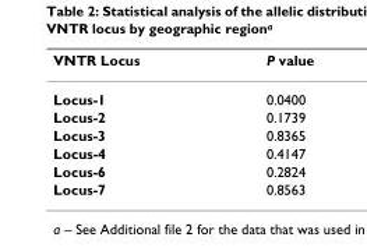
<table><thead><tr><td>VNTR Locus</td><td>P value</td></tr></thead><tbody><tr><td>Locus-1</td><td>0.0400</td></tr><tr><td>Locus-2</td><td>0.1739</td></tr><tr><td>Locus-3</td><td>0.8365</td></tr><tr><td>Locus-4</td><td>0.4147</td></tr><tr><td>Locus-6</td><td>0.2824</td></tr><tr><td>Locus-7</td><td>0.8563</td></tr></tbody></table>